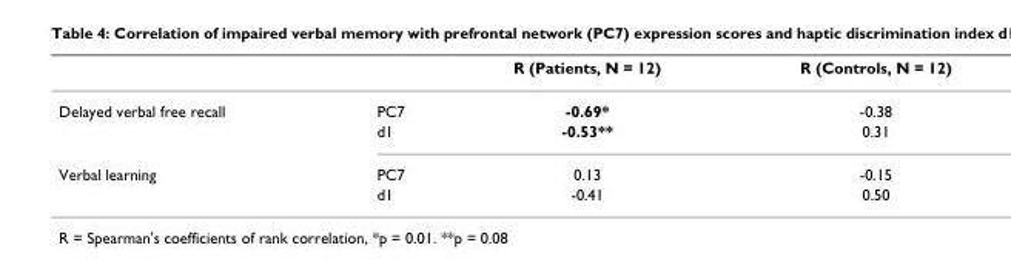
<table><thead><tr><td></td><td></td><td>R (Patients, N = 12)</td><td>R (Controls, N = 12)</td></tr></thead><tbody><tr><td rowspan="2">Delayed verbal free recall</td><td>PC7</td><td>-0.69*</td><td>-0.38</td></tr><tr><td>d1</td><td>-0.53**</td><td>0.31</td></tr><tr><td rowspan="2">Verbal learning</td><td>PC7</td><td>0.13</td><td>-0.15</td></tr><tr><td>d1</td><td>-0.41</td><td>0.50</td></tr></tbody></table>